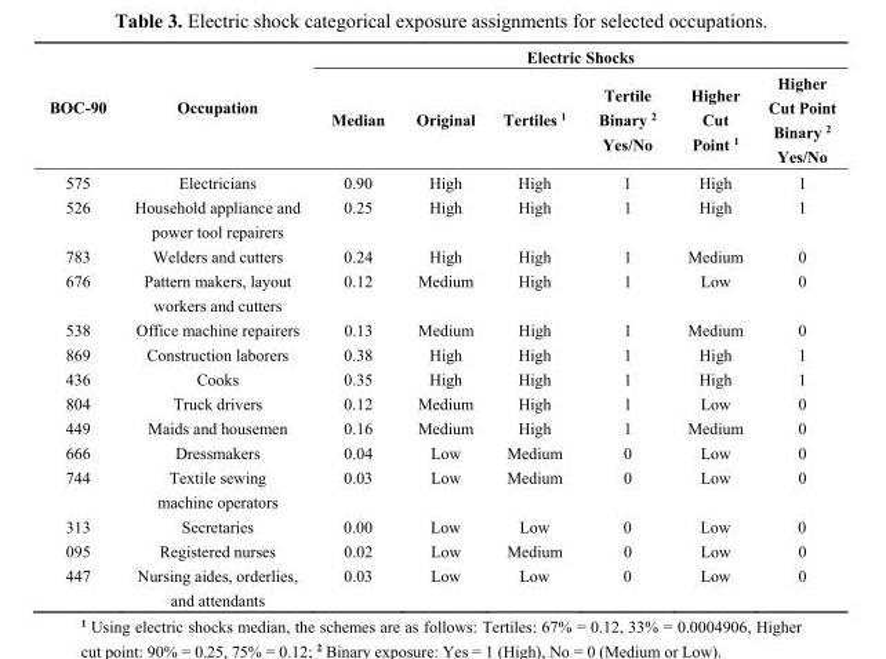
<table><thead><tr><td rowspan="2">BOC-90</td><td rowspan="2">Occupation</td><td colspan="6">Electric Shocks</td></tr><tr><td>Median</td><td>Original</td><td>Tertiles <sup>1</sup></td><td>Tertile Binary <sup>2</sup> Yes/No</td><td>Higher Cut Point <sup>1</sup></td><td>Higher Cut Point Binary <sup>2</sup> Yes/No</td></tr></thead><tbody><tr><td>575</td><td>Electricians</td><td>0.90</td><td>High</td><td>High</td><td>1</td><td>High</td><td>1</td></tr><tr><td>526</td><td>Household appliance and power tool repairers</td><td>0.25</td><td>High</td><td>High</td><td>1</td><td>High</td><td>1</td></tr><tr><td>783</td><td>Welders and cutters</td><td>0.24</td><td>High</td><td>High</td><td>1</td><td>Medium</td><td>0</td></tr><tr><td>676</td><td>Pattern makers, layout workers and cutters</td><td>0.12</td><td>Medium</td><td>High</td><td>1</td><td>Low</td><td>0</td></tr><tr><td>538</td><td>Office machine repairers</td><td>0.13</td><td>Medium</td><td>High</td><td>1</td><td>Medium</td><td>0</td></tr><tr><td>869</td><td>Construction laborers</td><td>0.38</td><td>High</td><td>High</td><td>1</td><td>High</td><td>1</td></tr><tr><td>436</td><td>Cooks</td><td>0.35</td><td>High</td><td>High</td><td>1</td><td>High</td><td>1</td></tr><tr><td>804</td><td>Truck drivers</td><td>0.12</td><td>Medium</td><td>High</td><td>1</td><td>Low</td><td>0</td></tr><tr><td>449</td><td>Maids and housemen</td><td>0.16</td><td>Medium</td><td>High</td><td>1</td><td>Medium</td><td>0</td></tr><tr><td>666</td><td>Dressmakers</td><td>0.04</td><td>Low</td><td>Medium</td><td>0</td><td>Low</td><td>0</td></tr><tr><td>744</td><td>Textile sewing machine operators</td><td>0.03</td><td>Low</td><td>Medium</td><td>0</td><td>Low</td><td>0</td></tr><tr><td>313</td><td>Secretaries</td><td>0.00</td><td>Low</td><td>Low</td><td>0</td><td>Low</td><td>0</td></tr><tr><td>095</td><td>Registered nurses</td><td>0.02</td><td>Low</td><td>Medium</td><td>0</td><td>Low</td><td>0</td></tr><tr><td>447</td><td>Nursing aides, orderlies, and attendants</td><td>0.03</td><td>Low</td><td>Low</td><td>0</td><td>Low</td><td>0</td></tr></tbody></table>